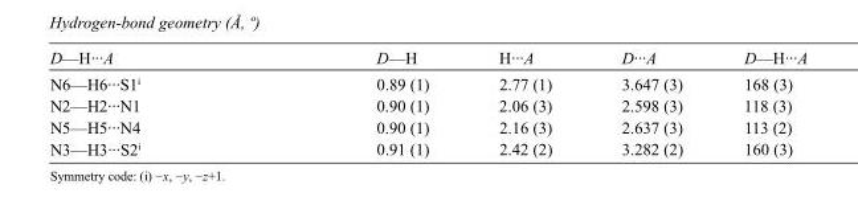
<table><tbody><tr><td>D—H···A</td><td>D—H</td><td>H···A</td><td>D···A</td><td>D—H···A</td></tr><tr><td>N6—H6···S1<sup>i</sup></td><td>0.89 (1)</td><td>2.77 (1)</td><td>3.647 (3)</td><td>168 (3)</td></tr><tr><td>N2—H2···N1</td><td>0.90 (1)</td><td>2.06 (3)</td><td>2.598 (3)</td><td>118 (3)</td></tr><tr><td>N5—H5···N4</td><td>0.90 (1)</td><td>2.16 (3)</td><td>2.637 (3)</td><td>113 (2)</td></tr><tr><td>N3—H3···S2<sup>i</sup></td><td>0.91 (1)</td><td>2.42 (2)</td><td>3.282 (2)</td><td>160 (3)</td></tr></tbody></table>